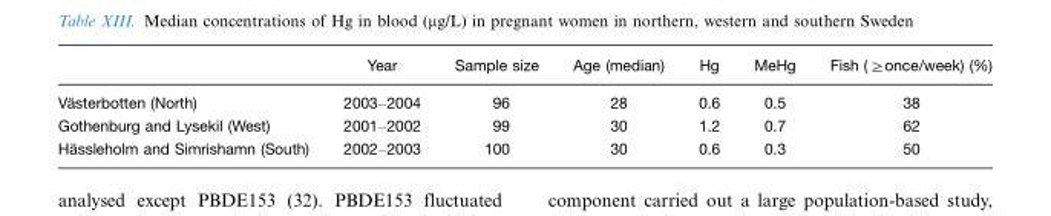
<table><thead><tr><td></td><td>Year</td><td>Sample size</td><td>Age (median)</td><td>Hg</td><td>MeHg</td><td>Fish (≥once/week) (%)</td></tr></thead><tbody><tr><td>Va¨ sterbotten (North)</td><td>2003–2004</td><td>96</td><td>28</td><td>0.6</td><td>0.5</td><td>38</td></tr><tr><td>Gothenburg and Lysekil (West)</td><td>2001–2002</td><td>99</td><td>30</td><td>1.2</td><td>0.7</td><td>62</td></tr><tr><td>Ha¨ ssleholm and Simrishamn (South)</td><td>2002–2003</td><td>100</td><td>30</td><td>0.6</td><td>0.3</td><td>50</td></tr></tbody></table>